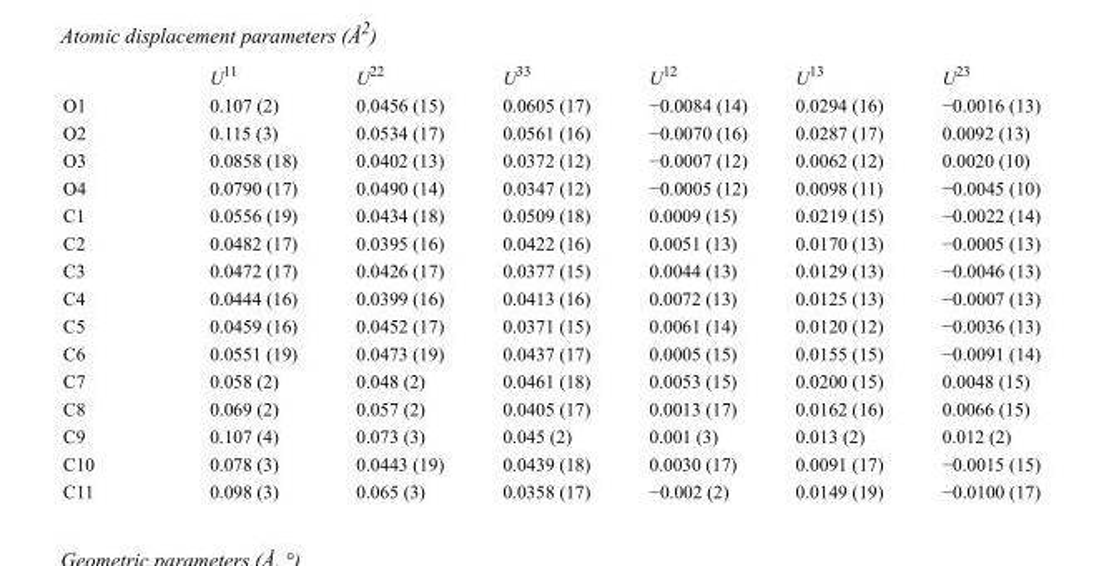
<table><thead><tr><td></td><td>U<sup>11</sup></td><td>U<sup>22</sup></td><td>U<sup>33</sup></td><td>U<sup>12</sup></td><td>U<sup>13</sup></td><td>U<sup>23</sup></td></tr></thead><tbody><tr><td>O1</td><td>0.107 (2)</td><td>0.0456 (15)</td><td>0.0605 (17)</td><td>−0.0084 (14)</td><td>0.0294 (16)</td><td>−0.0016 (13)</td></tr><tr><td>O2</td><td>0.115 (3)</td><td>0.0534 (17)</td><td>0.0561 (16)</td><td>−0.0070 (16)</td><td>0.0287 (17)</td><td>0.0092 (13)</td></tr><tr><td>O3</td><td>0.0858 (18)</td><td>0.0402 (13)</td><td>0.0372 (12)</td><td>−0.0007 (12)</td><td>0.0062 (12)</td><td>0.0020 (10)</td></tr><tr><td>O4</td><td>0.0790 (17)</td><td>0.0490 (14)</td><td>0.0347 (12)</td><td>−0.0005 (12)</td><td>0.0098 (11)</td><td>−0.0045 (10)</td></tr><tr><td>C1</td><td>0.0556 (19)</td><td>0.0434 (18)</td><td>0.0509 (18)</td><td>0.0009 (15)</td><td>0.0219 (15)</td><td>−0.0022 (14)</td></tr><tr><td>C2</td><td>0.0482 (17)</td><td>0.0395 (16)</td><td>0.0422 (16)</td><td>0.0051 (13)</td><td>0.0170 (13)</td><td>−0.0005 (13)</td></tr><tr><td>C3</td><td>0.0472 (17)</td><td>0.0426 (17)</td><td>0.0377 (15)</td><td>0.0044 (13)</td><td>0.0129 (13)</td><td>−0.0046 (13)</td></tr><tr><td>C4</td><td>0.0444 (16)</td><td>0.0399 (16)</td><td>0.0413 (16)</td><td>0.0072 (13)</td><td>0.0125 (13)</td><td>−0.0007 (13)</td></tr><tr><td>C5</td><td>0.0459 (16)</td><td>0.0452 (17)</td><td>0.0371 (15)</td><td>0.0061 (14)</td><td>0.0120 (12)</td><td>−0.0036 (13)</td></tr><tr><td>C6</td><td>0.0551 (19)</td><td>0.0473 (19)</td><td>0.0437 (17)</td><td>0.0005 (15)</td><td>0.0155 (15)</td><td>−0.0091 (14)</td></tr><tr><td>C7</td><td>0.058 (2)</td><td>0.048 (2)</td><td>0.0461 (18)</td><td>0.0053 (15)</td><td>0.0200 (15)</td><td>0.0048 (15)</td></tr><tr><td>C8</td><td>0.069 (2)</td><td>0.057 (2)</td><td>0.0405 (17)</td><td>0.0013 (17)</td><td>0.0162 (16)</td><td>0.0066 (15)</td></tr><tr><td>C9</td><td>0.107 (4)</td><td>0.073 (3)</td><td>0.045 (2)</td><td>0.001 (3)</td><td>0.013 (2)</td><td>0.012 (2)</td></tr><tr><td>C10</td><td>0.078 (3)</td><td>0.0443 (19)</td><td>0.0439 (18)</td><td>0.0030 (17)</td><td>0.0091 (17)</td><td>−0.0015 (15)</td></tr><tr><td>C11</td><td>0.098 (3)</td><td>0.065 (3)</td><td>0.0358 (17)</td><td>−0.002 (2)</td><td>0.0149 (19)</td><td>−0.0100 (17)</td></tr></tbody></table>